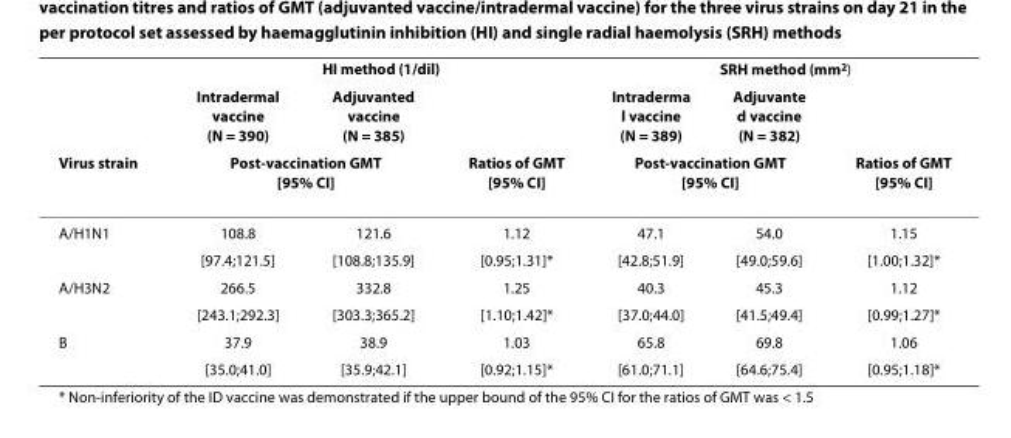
<table><thead><tr><td rowspan="3">Virus strain</td><td colspan="3">HI method (1/dil)</td><td colspan="3">SRH method (mm<sup>2</sup>)</td></tr><tr><td>Intradermal vaccine (N = 390)</td><td>Adjuvanted vaccine (N = 385)</td><td rowspan="2">Ratios of GMT [95% CI]</td><td>Intraderma l vaccine (N = 389)</td><td>Adjuvante d vaccine (N = 382)</td><td rowspan="2">Ratios of GMT [95% CI]</td></tr><tr><td colspan="2">Post-vaccination GMT [95% CI]</td><td colspan="2">Post-vaccination GMT [95% CI]</td></tr></thead><tbody><tr><td rowspan="2">A/H1N1</td><td>108.8</td><td>121.6</td><td>1.12</td><td>47.1</td><td>54.0</td><td>1.15</td></tr><tr><td>[97.4;121.5]</td><td>[108.8;135.9]</td><td>[0.95;1.31]*</td><td>[42.8;51.9]</td><td>[49.0;59.6]</td><td>[1.00;1.32]*</td></tr><tr><td rowspan="2">A/H3N2</td><td>266.5</td><td>332.8</td><td>1.25</td><td>40.3</td><td>45.3</td><td>1.12</td></tr><tr><td>[243.1;292.3]</td><td>[303.3;365.2]</td><td>[1.10;1.42]*</td><td>[37.0;44.0]</td><td>[41.5;49.4]</td><td>[0.99;1.27]*</td></tr><tr><td rowspan="2">B</td><td>37.9</td><td>38.9</td><td>1.03</td><td>65.8</td><td>69.8</td><td>1.06</td></tr><tr><td>[35.0;41.0]</td><td>[35.9;42.1]</td><td>[0.92;1.15]*</td><td>[61.0;71.1]</td><td>[64.6;75.4]</td><td>[0.95;1.18]*</td></tr></tbody></table>